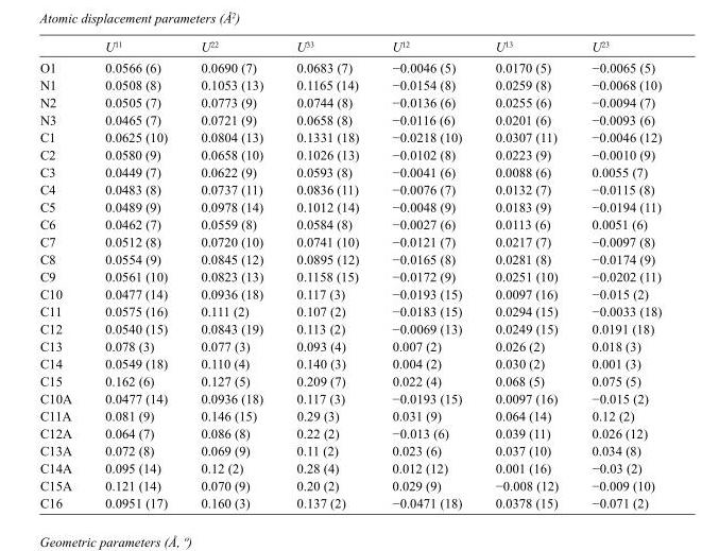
<table><thead><tr><td></td><td>U<sup>11</sup></td><td>U<sup>22</sup></td><td>U<sup>33</sup></td><td>U<sup>12</sup></td><td>U<sup>13</sup></td><td>U<sup>23</sup></td></tr></thead><tbody><tr><td>O1</td><td>0.0566 (6)</td><td>0.0690 (7)</td><td>0.0683 (7)</td><td>−0.0046 (5)</td><td>0.0170 (5)</td><td>−0.0065 (5)</td></tr><tr><td>N1</td><td>0.0508 (8)</td><td>0.1053 (13)</td><td>0.1165 (14)</td><td>−0.0154 (8)</td><td>0.0259 (8)</td><td>−0.0068 (10)</td></tr><tr><td>N2</td><td>0.0505 (7)</td><td>0.0773 (9)</td><td>0.0744 (8)</td><td>−0.0136 (6)</td><td>0.0255 (6)</td><td>−0.0094 (7)</td></tr><tr><td>N3</td><td>0.0465 (7)</td><td>0.0721 (9)</td><td>0.0658 (8)</td><td>−0.0116 (6)</td><td>0.0201 (6)</td><td>−0.0093 (6)</td></tr><tr><td>C1</td><td>0.0625 (10)</td><td>0.0804 (13)</td><td>0.1331 (18)</td><td>−0.0218 (10)</td><td>0.0307 (11)</td><td>−0.0046 (12)</td></tr><tr><td>C2</td><td>0.0580 (9)</td><td>0.0658 (10)</td><td>0.1026 (13)</td><td>−0.0102 (8)</td><td>0.0223 (9)</td><td>−0.0010 (9)</td></tr><tr><td>C3</td><td>0.0449 (7)</td><td>0.0622 (9)</td><td>0.0593 (8)</td><td>−0.0041 (6)</td><td>0.0088 (6)</td><td>0.0055 (7)</td></tr><tr><td>C4</td><td>0.0483 (8)</td><td>0.0737 (11)</td><td>0.0836 (11)</td><td>−0.0076 (7)</td><td>0.0132 (7)</td><td>−0.0115 (8)</td></tr><tr><td>C5</td><td>0.0489 (9)</td><td>0.0978 (14)</td><td>0.1012 (14)</td><td>−0.0048 (9)</td><td>0.0183 (9)</td><td>−0.0194 (11)</td></tr><tr><td>C6</td><td>0.0462 (7)</td><td>0.0559 (8)</td><td>0.0584 (8)</td><td>−0.0027 (6)</td><td>0.0113 (6)</td><td>0.0051 (6)</td></tr><tr><td>C7</td><td>0.0512 (8)</td><td>0.0720 (10)</td><td>0.0741 (10)</td><td>−0.0121 (7)</td><td>0.0217 (7)</td><td>−0.0097 (8)</td></tr><tr><td>C8</td><td>0.0554 (9)</td><td>0.0845 (12)</td><td>0.0895 (12)</td><td>−0.0165 (8)</td><td>0.0281 (8)</td><td>−0.0174 (9)</td></tr><tr><td>C9</td><td>0.0561 (10)</td><td>0.0823 (13)</td><td>0.1158 (15)</td><td>−0.0172 (9)</td><td>0.0251 (10)</td><td>−0.0202 (11)</td></tr><tr><td>C10</td><td>0.0477 (14)</td><td>0.0936 (18)</td><td>0.117 (3)</td><td>−0.0193 (15)</td><td>0.0097 (16)</td><td>−0.015 (2)</td></tr><tr><td>C11</td><td>0.0575 (16)</td><td>0.111 (2)</td><td>0.107 (2)</td><td>−0.0183 (15)</td><td>0.0294 (15)</td><td>−0.0033 (18)</td></tr><tr><td>C12</td><td>0.0540 (15)</td><td>0.0843 (19)</td><td>0.113 (2)</td><td>−0.0069 (13)</td><td>0.0249 (15)</td><td>0.0191 (18)</td></tr><tr><td>C13</td><td>0.078 (3)</td><td>0.077 (3)</td><td>0.093 (4)</td><td>0.007 (2)</td><td>0.026 (2)</td><td>0.018 (3)</td></tr><tr><td>C14</td><td>0.0549 (18)</td><td>0.110 (4)</td><td>0.140 (3)</td><td>0.004 (2)</td><td>0.030 (2)</td><td>0.001 (3)</td></tr><tr><td>C15</td><td>0.162 (6)</td><td>0.127 (5)</td><td>0.209 (7)</td><td>0.022 (4)</td><td>0.068 (5)</td><td>0.075 (5)</td></tr><tr><td>C10A</td><td>0.0477 (14)</td><td>0.0936 (18)</td><td>0.117 (3)</td><td>−0.0193 (15)</td><td>0.0097 (16)</td><td>−0.015 (2)</td></tr><tr><td>C11A</td><td>0.081 (9)</td><td>0.146 (15)</td><td>0.29 (3)</td><td>0.031 (9)</td><td>0.064 (14)</td><td>0.12 (2)</td></tr><tr><td>C12A</td><td>0.064 (7)</td><td>0.086 (8)</td><td>0.22 (2)</td><td>−0.013 (6)</td><td>0.039 (11)</td><td>0.026 (12)</td></tr><tr><td>C13A</td><td>0.072 (8)</td><td>0.069 (9)</td><td>0.11 (2)</td><td>0.023 (6)</td><td>0.037 (10)</td><td>0.034 (8)</td></tr><tr><td>C14A</td><td>0.095 (14)</td><td>0.12 (2)</td><td>0.28 (4)</td><td>0.012 (12)</td><td>0.001 (16)</td><td>−0.03 (2)</td></tr><tr><td>C15A</td><td>0.121 (14)</td><td>0.070 (9)</td><td>0.20 (2)</td><td>0.029 (9)</td><td>−0.008 (12)</td><td>−0.009 (10)</td></tr><tr><td>C16</td><td>0.0951 (17)</td><td>0.160 (3)</td><td>0.137 (2)</td><td>−0.0471 (18)</td><td>0.0378 (15)</td><td>−0.071 (2)</td></tr></tbody></table>